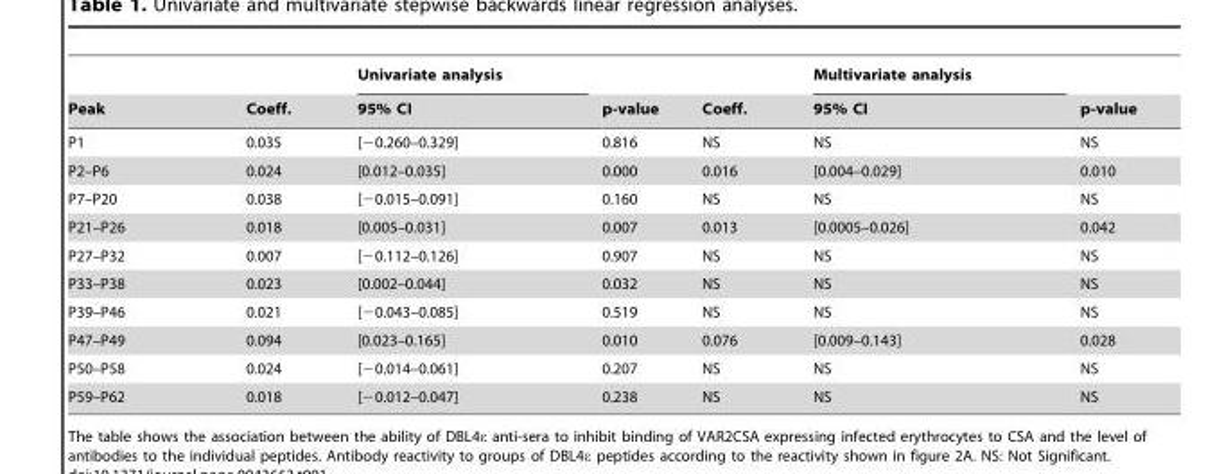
<table><thead><tr><td rowspan="2">Peak</td><td rowspan="2">Coeff.</td><td rowspan="2">Univariate analysis 95% CI</td><td rowspan="2">p-value</td><td rowspan="2">Coeff.</td><td rowspan="2">Multivariate analysis 95% CI</td><td rowspan="2">p-value</td></tr><tr></tr></thead><tbody><tr><td>P1</td><td>0.035</td><td>[−0.260–0.329]</td><td>0.816</td><td>NS</td><td>NS</td><td>NS</td></tr><tr><td>P2–P6</td><td>0.024</td><td>[0.012–0.035]</td><td>0.000</td><td>0.016</td><td>[0.004–0.029]</td><td>0.010</td></tr><tr><td>P7–P20</td><td>0.038</td><td>[−0.015–0.091]</td><td>0.160</td><td>NS</td><td>NS</td><td>NS</td></tr><tr><td>P21–P26</td><td>0.018</td><td>[0.005–0.031]</td><td>0.007</td><td>0.013</td><td>[0.0005–0.026]</td><td>0.042</td></tr><tr><td>P27–P32</td><td>0.007</td><td>[−0.112–0.126]</td><td>0.907</td><td>NS</td><td>NS</td><td>NS</td></tr><tr><td>P33–P38</td><td>0.023</td><td>[0.002–0.044]</td><td>0.032</td><td>NS</td><td>NS</td><td>NS</td></tr><tr><td>P39–P46</td><td>0.021</td><td>[−0.043–0.085]</td><td>0.519</td><td>NS</td><td>NS</td><td>NS</td></tr><tr><td>P47–P49</td><td>0.094</td><td>[0.023–0.165]</td><td>0.010</td><td>0.076</td><td>[0.009–0.143]</td><td>0.028</td></tr><tr><td>P50–P58</td><td>0.024</td><td>[−0.014–0.061]</td><td>0.207</td><td>NS</td><td>NS</td><td>NS</td></tr><tr><td>P59–P62</td><td>0.018</td><td>[−0.012–0.047]</td><td>0.238</td><td>NS</td><td>NS</td><td>NS</td></tr></tbody></table>